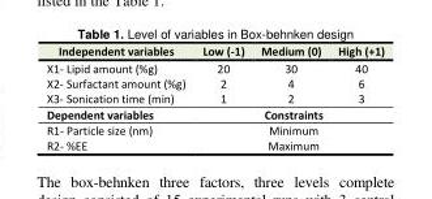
<table><tbody><tr><td>Independent variables</td><td>Low (-1)</td><td>Medium (0)</td><td>High (+1)</td></tr><tr><td>X1- Lipid amount (%g)</td><td>20</td><td>30</td><td>40</td></tr><tr><td>X2- Surfactant amount (%g)</td><td>2</td><td>4</td><td>6</td></tr><tr><td>X3- Sonication time (min)</td><td>1</td><td>2</td><td>3</td></tr><tr><td>Dependent variables</td><td colspan="3">Constraints</td></tr><tr><td>R1- Particle size (nm)</td><td colspan="3">Minimum</td></tr><tr><td>R2- %EE</td><td colspan="3">Maximum</td></tr></tbody></table>